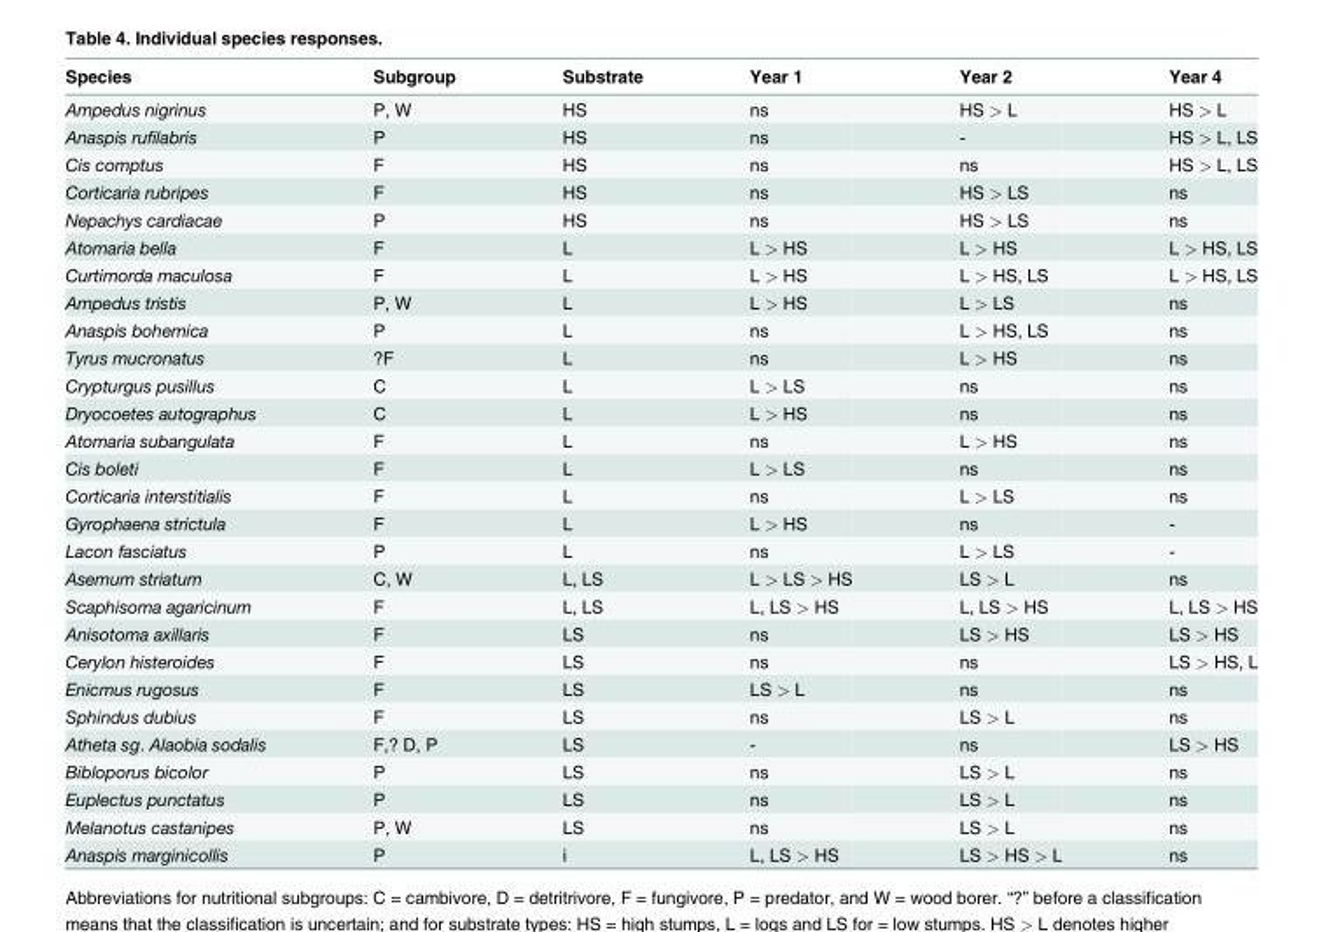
<table><thead><tr><td>Species</td><td>Subgroup</td><td>Substrate</td><td>Year 1</td><td>Year 2</td><td>Year 4</td></tr></thead><tbody><tr><td>Ampedus nigrinus</td><td>P, W</td><td>HS</td><td>ns</td><td>HS &gt; L</td><td>HS &gt; L</td></tr><tr><td>Anaspis rufilabris</td><td>P</td><td>HS</td><td>ns</td><td>-</td><td>HS &gt; L, LS</td></tr><tr><td>Cis comptus</td><td>F</td><td>HS</td><td>ns</td><td>ns</td><td>HS &gt; L, LS</td></tr><tr><td>Corticaria rubripes</td><td>F</td><td>HS</td><td>ns</td><td>HS &gt; LS</td><td>ns</td></tr><tr><td>Nepachys cardiacae</td><td>P</td><td>HS</td><td>ns</td><td>HS &gt; LS</td><td>ns</td></tr><tr><td>Atomaria bella</td><td>F</td><td>L</td><td>L &gt; HS</td><td>L &gt; HS</td><td>L &gt; HS, LS</td></tr><tr><td>Curtimorda maculosa</td><td>F</td><td>L</td><td>L &gt; HS</td><td>L &gt; HS, LS</td><td>L &gt; HS, LS</td></tr><tr><td>Ampedus tristis</td><td>P, W</td><td>L</td><td>L &gt; HS</td><td>L &gt; LS</td><td>ns</td></tr><tr><td>Anaspis bohemica</td><td>P</td><td>L</td><td>ns</td><td>L &gt; HS, LS</td><td>ns</td></tr><tr><td>Tyrus mucronatus</td><td>?F</td><td>L</td><td>ns</td><td>L &gt; HS</td><td>ns</td></tr><tr><td>Crypturgus pusillus</td><td>C</td><td>L</td><td>L &gt; LS</td><td>ns</td><td>ns</td></tr><tr><td>Dryocoetes autographus</td><td>C</td><td>L</td><td>L &gt; HS</td><td>ns</td><td>ns</td></tr><tr><td>Atomaria subangulata</td><td>F</td><td>L</td><td>ns</td><td>L &gt; HS</td><td>ns</td></tr><tr><td>Cis boleti</td><td>F</td><td>L</td><td>L &gt; LS</td><td>ns</td><td>ns</td></tr><tr><td>Corticaria interstitialis</td><td>F</td><td>L</td><td>ns</td><td>L &gt; LS</td><td>ns</td></tr><tr><td>Gyrophaena strictula</td><td>F</td><td>L</td><td>L &gt; HS</td><td>ns</td><td>-</td></tr><tr><td>Lacon fasciatus</td><td>P</td><td>L</td><td>ns</td><td>L &gt; LS</td><td>-</td></tr><tr><td>Asemum striatum</td><td>C, W</td><td>L, LS</td><td>L &gt; LS &gt; HS</td><td>LS &gt; L</td><td>ns</td></tr><tr><td>Scaphisoma agaricinum</td><td>F</td><td>L, LS</td><td>L, LS &gt; HS</td><td>L, LS &gt; HS</td><td>L, LS &gt; HS</td></tr><tr><td>Anisotoma axillaris</td><td>F</td><td>LS</td><td>ns</td><td>LS &gt; HS</td><td>LS &gt; HS</td></tr><tr><td>Cerylon histeroides</td><td>F</td><td>LS</td><td>ns</td><td>ns</td><td>LS &gt; HS, L</td></tr><tr><td>Enicmus rugosus</td><td>F</td><td>LS</td><td>LS &gt; L</td><td>ns</td><td>ns</td></tr><tr><td>Sphindus dubius</td><td>F</td><td>LS</td><td>ns</td><td>LS &gt; L</td><td>ns</td></tr><tr><td>Atheta sg. Alaobia sodalis</td><td>F,? D, P</td><td>LS</td><td>-</td><td>ns</td><td>LS &gt; HS</td></tr><tr><td>Bibloporus bicolor</td><td>P</td><td>LS</td><td>ns</td><td>LS &gt; L</td><td>ns</td></tr><tr><td>Euplectus punctatus</td><td>P</td><td>LS</td><td>ns</td><td>LS &gt; L</td><td>ns</td></tr><tr><td>Melanotus castanipes</td><td>P, W</td><td>LS</td><td>ns</td><td>LS &gt; L</td><td>ns</td></tr><tr><td>Anaspis marginicollis</td><td>P</td><td>i</td><td>L, LS &gt; HS</td><td>LS &gt; HS &gt; L</td><td>ns</td></tr></tbody></table>